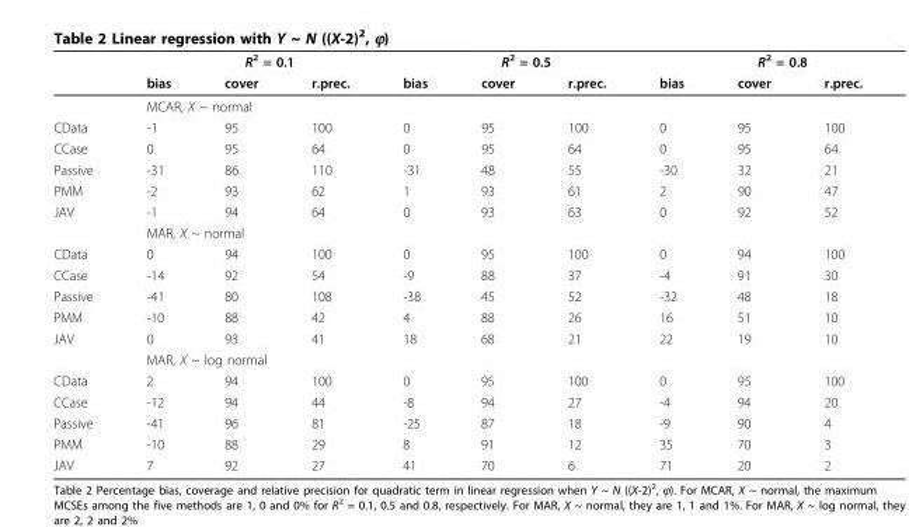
<table><thead><tr><td rowspan="2"></td><td colspan="3">R<sup>2</sup> = 0.1</td><td colspan="3">R<sup>2</sup> = 0.5</td><td colspan="3">R<sup>2</sup> = 0.8</td></tr><tr><td>bias</td><td>cover</td><td>r.prec.</td><td>bias</td><td>cover</td><td>r.prec.</td><td>bias</td><td>cover</td><td>r.prec.</td></tr></thead><tbody><tr><td></td><td colspan="9">MCAR, X ~ normal</td></tr><tr><td>CData</td><td>-1</td><td>95</td><td>100</td><td>0</td><td>95</td><td>100</td><td>0</td><td>95</td><td>100</td></tr><tr><td>CCase</td><td>0</td><td>95</td><td>64</td><td>0</td><td>95</td><td>64</td><td>0</td><td>95</td><td>64</td></tr><tr><td>Passive</td><td>-31</td><td>86</td><td>110</td><td>-31</td><td>48</td><td>55</td><td>-30</td><td>32</td><td>21</td></tr><tr><td>PMM</td><td>-2</td><td>93</td><td>62</td><td>1</td><td>93</td><td>61</td><td>2</td><td>90</td><td>47</td></tr><tr><td rowspan="2">JAV</td><td>-1</td><td>94</td><td>64</td><td>0</td><td>93</td><td>63</td><td>0</td><td>92</td><td>52</td></tr><tr><td colspan="9">MAR, X ~ normal</td></tr><tr><td>CData</td><td>0</td><td>94</td><td>100</td><td>0</td><td>95</td><td>100</td><td>0</td><td>94</td><td>100</td></tr><tr><td>CCase</td><td>-14</td><td>92</td><td>54</td><td>-9</td><td>88</td><td>37</td><td>-4</td><td>91</td><td>30</td></tr><tr><td>Passive</td><td>-41</td><td>80</td><td>108</td><td>-38</td><td>45</td><td>52</td><td>-32</td><td>48</td><td>18</td></tr><tr><td>PMM</td><td>-10</td><td>88</td><td>42</td><td>4</td><td>88</td><td>26</td><td>16</td><td>51</td><td>10</td></tr><tr><td rowspan="2">JAV</td><td>0</td><td>93</td><td>41</td><td>18</td><td>68</td><td>21</td><td>22</td><td>19</td><td>10</td></tr><tr><td colspan="9">MAR, X ~ log normal</td></tr><tr><td>CData</td><td>2</td><td>94</td><td>100</td><td>0</td><td>95</td><td>100</td><td>0</td><td>95</td><td>100</td></tr><tr><td>CCase</td><td>-12</td><td>94</td><td>44</td><td>-8</td><td>94</td><td>27</td><td>-4</td><td>94</td><td>20</td></tr><tr><td>Passive</td><td>-41</td><td>96</td><td>81</td><td>-25</td><td>87</td><td>18</td><td>-9</td><td>90</td><td>4</td></tr><tr><td>PMM</td><td>-10</td><td>88</td><td>29</td><td>8</td><td>91</td><td>12</td><td>35</td><td>70</td><td>3</td></tr><tr><td>JAV</td><td>7</td><td>92</td><td>27</td><td>41</td><td>70</td><td>6</td><td>71</td><td>20</td><td>2</td></tr></tbody></table>